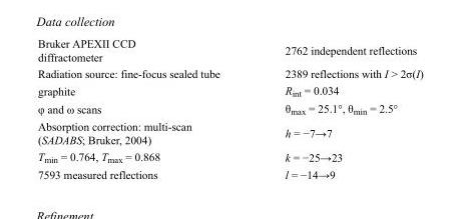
<table><tbody><tr><td>Bruker APEXII CCD diffractometer</td><td>2762 independent reflections</td></tr><tr><td>Radiation source: fine-focus sealed tube</td><td>2389 reflections with I &gt; 2σ(I)</td></tr><tr><td>graphite</td><td>R<sub>int</sub> = 0.034</td></tr><tr><td>φ and ω scans</td><td>θ<sub>max</sub> = 25.1°, θ<sub>min</sub> = 2.5°</td></tr><tr><td>Absorption correction: multi-scan (SADABS; Bruker, 2004)</td><td>h = −7→7</td></tr><tr><td>T<sub>min</sub> = 0.764, T<sub>max</sub> = 0.868</td><td>k = −25→23</td></tr><tr><td>7593 measured reflections</td><td>l = −14→9</td></tr></tbody></table>